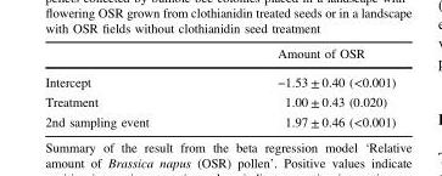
<table><thead><tr><td></td><td>Amount of OSR</td></tr></thead><tbody><tr><td>Intercept</td><td>−1.53 ± 0.40 (&lt;0.001)</td></tr><tr><td>Treatment</td><td>1.00 ± 0.43 (0.020)</td></tr><tr><td>2nd sampling event</td><td>1.97 ± 0.46 (&lt;0.001)</td></tr></tbody></table>